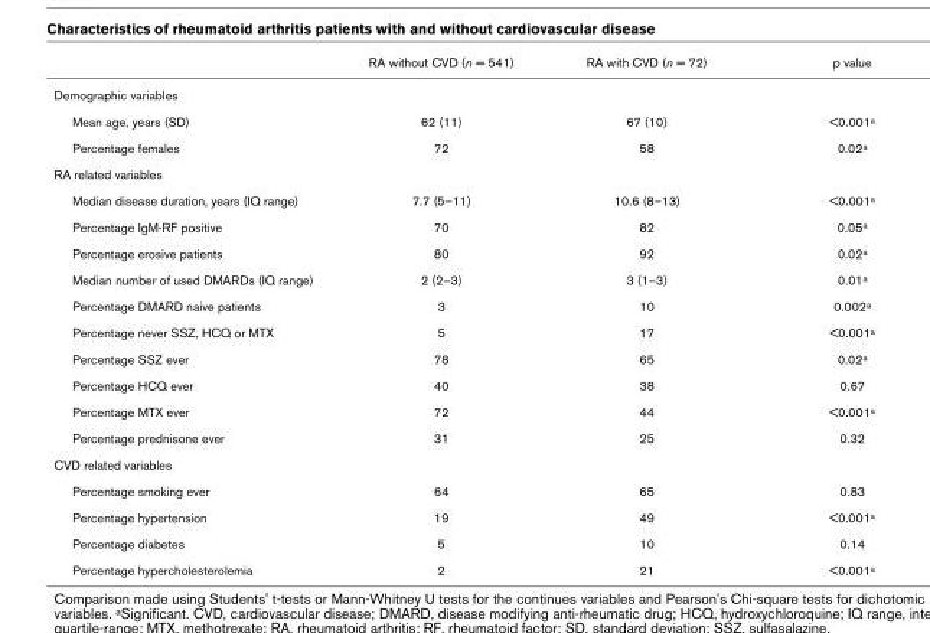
<table><thead><tr><td></td><td>RA without CVD (n = 541)</td><td>RA with CVD (n = 72)</td><td>p value</td></tr></thead><tbody><tr><td colspan="4">Demographic variables</td></tr><tr><td>Mean age, years (SD)</td><td>62 (11)</td><td>67 (10)</td><td>&lt;0.001a</td></tr><tr><td>Percentage females</td><td>72</td><td>58</td><td>0.02a</td></tr><tr><td colspan="4">RA related variables</td></tr><tr><td>Median disease duration, years (IQ range)</td><td>7.7 (5–11)</td><td>10.6 (8–13)</td><td>&lt;0.001a</td></tr><tr><td>Percentage IgM-RF positive</td><td>70</td><td>82</td><td>0.05a</td></tr><tr><td>Percentage erosive patients</td><td>80</td><td>92</td><td>0.02a</td></tr><tr><td>Median number of used DMARDs (IQ range)</td><td>2 (2–3)</td><td>3 (1–3)</td><td>0.01a</td></tr><tr><td>Percentage DMARD naive patients</td><td>3</td><td>10</td><td>0.002a</td></tr><tr><td>Percentage never SSZ, HCQ or MTX</td><td>5</td><td>17</td><td>&lt;0.001a</td></tr><tr><td>Percentage SSZ ever</td><td>78</td><td>65</td><td>0.02a</td></tr><tr><td>Percentage HCQ ever</td><td>40</td><td>38</td><td>0.67</td></tr><tr><td>Percentage MTX ever</td><td>72</td><td>44</td><td>&lt;0.001a</td></tr><tr><td>Percentage prednisone ever</td><td>31</td><td>25</td><td>0.32</td></tr><tr><td colspan="4">CVD related variables</td></tr><tr><td>Percentage smoking ever</td><td>64</td><td>65</td><td>0.83</td></tr><tr><td>Percentage hypertension</td><td>19</td><td>49</td><td>&lt;0.001a</td></tr><tr><td>Percentage diabetes</td><td>5</td><td>10</td><td>0.14</td></tr><tr><td>Percentage hypercholesterolemia</td><td>2</td><td>21</td><td>&lt;0.001a</td></tr></tbody></table>